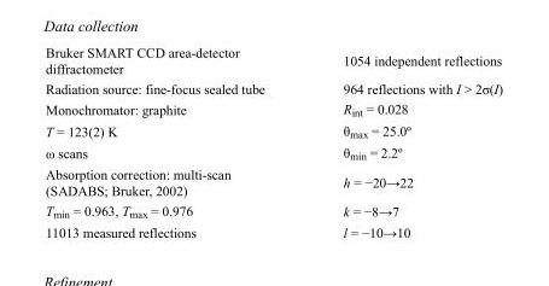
<table><tbody><tr><td>Bruker SMART CCD area-detector diffractometer</td><td>1054 independent reflections</td></tr><tr><td>Radiation source: fine-focus sealed tube</td><td>964 reflections with I &gt; 2σ(I)</td></tr><tr><td>Monochromator: graphite</td><td>R<sub>int</sub> = 0.028</td></tr><tr><td>T = 123(2) K</td><td>θ<sub>max</sub> = 25.0º</td></tr><tr><td>ω scans</td><td>θ<sub>min</sub> = 2.2º</td></tr><tr><td>Absorption correction: multi-scan (SADABS; Bruker, 2002)</td><td>h = −20→22</td></tr><tr><td>T<sub>min</sub> = 0.963, T<sub>max</sub> = 0.976</td><td>k = −8→7</td></tr><tr><td>11013 measured reflections</td><td>l = −10→10</td></tr></tbody></table>